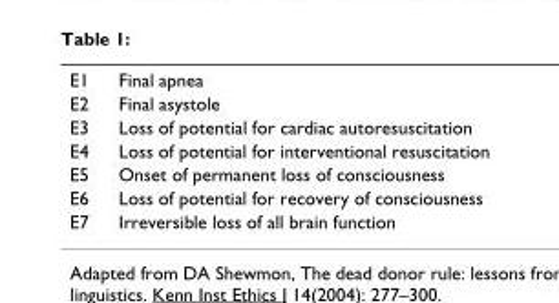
<table><tbody><tr><td>E1</td><td>Final apnea</td></tr><tr><td>E2</td><td>Final asystole</td></tr><tr><td>E3</td><td>Loss of potential for cardiac autoresuscitation</td></tr><tr><td>E4</td><td>Loss of potential for interventional resuscitation</td></tr><tr><td>E5</td><td>Onset of permanent loss of consciousness</td></tr><tr><td>E6</td><td>Loss of potential for recovery of consciousness</td></tr><tr><td>E7</td><td>Irreversible loss of all brain function</td></tr></tbody></table>